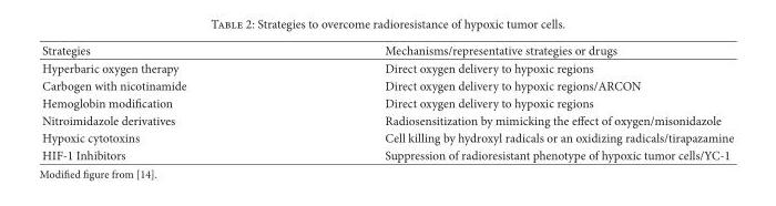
<table><thead><tr><td>Strategies</td><td>Mechanisms/representative strategies or drugs</td></tr></thead><tbody><tr><td>Hyperbaric oxygen therapy</td><td>Direct oxygen delivery to hypoxic regions</td></tr><tr><td>Carbogen with nicotinamide</td><td>Direct oxygen delivery to hypoxic regions/ARCON</td></tr><tr><td>Hemoglobin modi�cation</td><td>Direct oxygen delivery to hypoxic regions</td></tr><tr><td>Nitroimidazole derivatives</td><td>Radiosensitization by mimicking the effect of oxygen/misonidazole</td></tr><tr><td>Hypoxic cytotoxins</td><td>Cell killing by hydroxyl radicals or an oxidizing radicals/tirapazamine</td></tr><tr><td>HIF-1 Inhibitors</td><td>Suppression of radioresistant phenotype of hypoxic tumor cells/YC-1</td></tr></tbody></table>